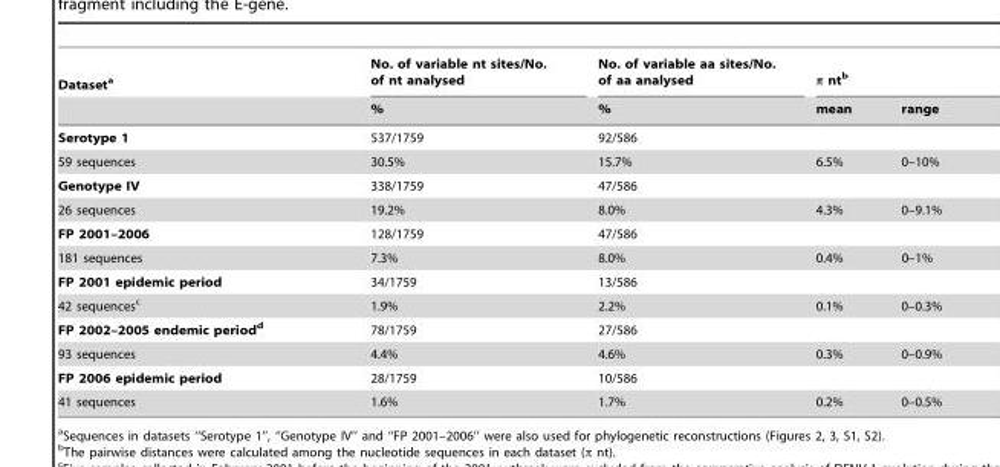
<table><thead><tr><td rowspan="2">Dataset<sup>a</sup></td><td rowspan="2">No. of variable nt sites/No. of nt analysed %</td><td rowspan="2">No. of variable aa sites/No. of aa analysed %</td><td colspan="2">π nt<sup>b</sup></td></tr><tr><td>mean</td><td>range</td></tr></thead><tbody><tr><td>Serotype 1</td><td>537/1759</td><td>92/586</td><td></td><td></td></tr><tr><td>59 sequences</td><td>30.5%</td><td>15.7%</td><td>6.5%</td><td>0–10%</td></tr><tr><td>Genotype IV</td><td>338/1759</td><td>47/586</td><td></td><td></td></tr><tr><td>26 sequences</td><td>19.2%</td><td>8.0%</td><td>4.3%</td><td>0–9.1%</td></tr><tr><td>FP 2001–2006</td><td>128/1759</td><td>47/586</td><td></td><td></td></tr><tr><td>181 sequences</td><td>7.3%</td><td>8.0%</td><td>0.4%</td><td>0–1%</td></tr><tr><td>FP 2001 epidemic period</td><td>34/1759</td><td>13/586</td><td></td><td></td></tr><tr><td>42 sequences<sup>c</sup></td><td>1.9%</td><td>2.2%</td><td>0.1%</td><td>0–0.3%</td></tr><tr><td>FP 2002–2005 endemic periodd</td><td>78/1759</td><td>27/586</td><td></td><td></td></tr><tr><td>93 sequences</td><td>4.4%</td><td>4.6%</td><td>0.3%</td><td>0–0.9%</td></tr><tr><td>FP 2006 epidemic period</td><td>28/1759</td><td>10/586</td><td></td><td></td></tr><tr><td>41 sequences</td><td>1.6%</td><td>1.7%</td><td>0.2%</td><td>0–0.5%</td></tr></tbody></table>